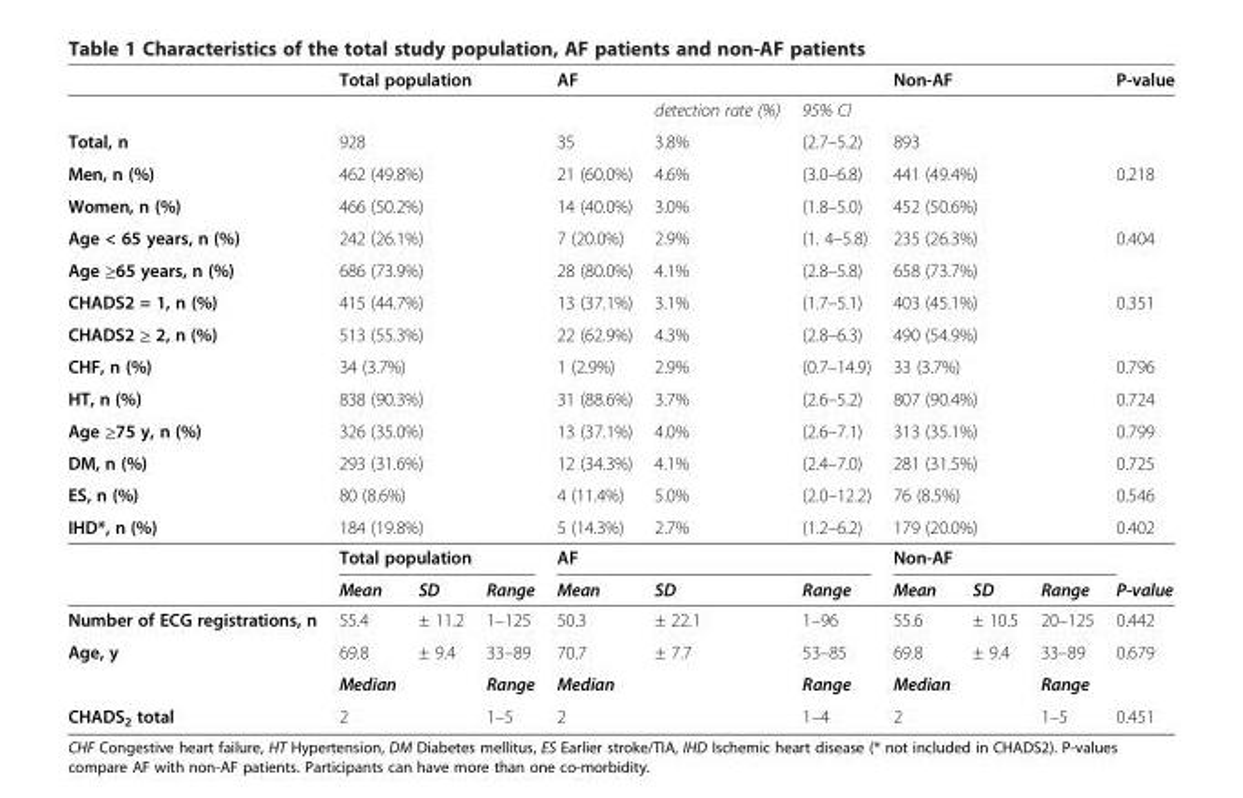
<table><thead><tr><td></td><td colspan="3">Total population</td><td>AF</td><td></td><td></td><td colspan="2">Non-AF</td><td></td><td>P-value</td></tr></thead><tbody><tr><td></td><td colspan="3"></td><td></td><td>detection rate (%)</td><td>95% CI</td><td colspan="4"></td></tr><tr><td>Total, n</td><td colspan="3">928</td><td>35</td><td>3.8%</td><td>(2.7–5.2)</td><td colspan="4">893</td></tr><tr><td>Men, n (%)</td><td colspan="3">462 (49.8%)</td><td>21 (60.0%)</td><td>4.6%</td><td>(3.0–6.8)</td><td colspan="2">441 (49.4%)</td><td></td><td>0.218</td></tr><tr><td>Women, n (%)</td><td colspan="3">466 (50.2%)</td><td>14 (40.0%)</td><td>3.0%</td><td>(1.8–5.0)</td><td colspan="2">452 (50.6%)</td><td></td><td></td></tr><tr><td>Age &lt; 65 years, n (%)</td><td colspan="3">242 (26.1%)</td><td>7 (20.0%)</td><td>2.9%</td><td>(1. 4–5.8)</td><td colspan="2">235 (26.3%)</td><td></td><td>0.404</td></tr><tr><td>Age ≥65 years, n (%)</td><td colspan="3">686 (73.9%)</td><td>28 (80.0%)</td><td>4.1%</td><td>(2.8–5.8)</td><td colspan="2">658 (73.7%)</td><td></td><td></td></tr><tr><td>CHADS2 = 1, n (%)</td><td colspan="3">415 (44.7%)</td><td>13 (37.1%)</td><td>3.1%</td><td>(1.7–5.1)</td><td colspan="2">403 (45.1%)</td><td></td><td>0.351</td></tr><tr><td>CHADS2 ≥ 2, n (%)</td><td colspan="3">513 (55.3%)</td><td>22 (62.9%)</td><td>4.3%</td><td>(2.8–6.3)</td><td colspan="2">490 (54.9%)</td><td></td><td></td></tr><tr><td>CHF, n (%)</td><td colspan="3">34 (3.7%)</td><td>1 (2.9%)</td><td>2.9%</td><td>(0.7–14.9)</td><td colspan="2">33 (3.7%)</td><td></td><td>0.796</td></tr><tr><td>HT, n (%)</td><td colspan="3">838 (90.3%)</td><td>31 (88.6%)</td><td>3.7%</td><td>(2.6–5.2)</td><td colspan="2">807 (90.4%)</td><td></td><td>0.724</td></tr><tr><td>Age ≥75 y, n (%)</td><td colspan="3">326 (35.0%)</td><td>13 (37.1%)</td><td>4.0%</td><td>(2.6–7.1)</td><td colspan="2">313 (35.1%)</td><td></td><td>0.799</td></tr><tr><td>DM, n (%)</td><td colspan="3">293 (31.6%)</td><td>12 (34.3%)</td><td>4.1%</td><td>(2.4–7.0)</td><td colspan="2">281 (31.5%)</td><td></td><td>0.725</td></tr><tr><td>ES, n (%)</td><td colspan="3">80 (8.6%)</td><td>4 (11.4%)</td><td>5.0%</td><td>(2.0–12.2)</td><td colspan="2">76 (8.5%)</td><td></td><td>0.546</td></tr><tr><td rowspan="3">IHD*, n (%)</td><td colspan="3">184 (19.8%)</td><td>5 (14.3%)</td><td>2.7%</td><td>(1.2–6.2)</td><td colspan="2">179 (20.0%)</td><td></td><td>0.402</td></tr><tr><td colspan="3">Total population</td><td>AF</td><td></td><td></td><td colspan="3">Non-AF</td><td></td></tr><tr><td>Mean</td><td>SD</td><td>Range</td><td>Mean</td><td>SD</td><td>Range</td><td>Mean</td><td>SD</td><td>Range</td><td>P-value</td></tr><tr><td>Number of ECG registrations, n</td><td>55.4</td><td>± 11.2</td><td>1–125</td><td>50.3</td><td>± 22.1</td><td>1–96</td><td>55.6</td><td>± 10.5</td><td>20–125</td><td>0.442</td></tr><tr><td rowspan="2">Age, y</td><td>69.8</td><td>± 9.4</td><td>33–89</td><td>70.7</td><td>± 7.7</td><td>53–85</td><td>69.8</td><td>± 9.4</td><td>33–89</td><td>0.679</td></tr><tr><td>Median</td><td></td><td>Range</td><td>Median</td><td></td><td>Range</td><td>Median</td><td></td><td>Range</td><td></td></tr><tr><td>CHADS<sub>2</sub> total</td><td>2</td><td></td><td>1–5</td><td>2</td><td></td><td>1–4</td><td>2</td><td></td><td>1–5</td><td>0.451</td></tr></tbody></table>